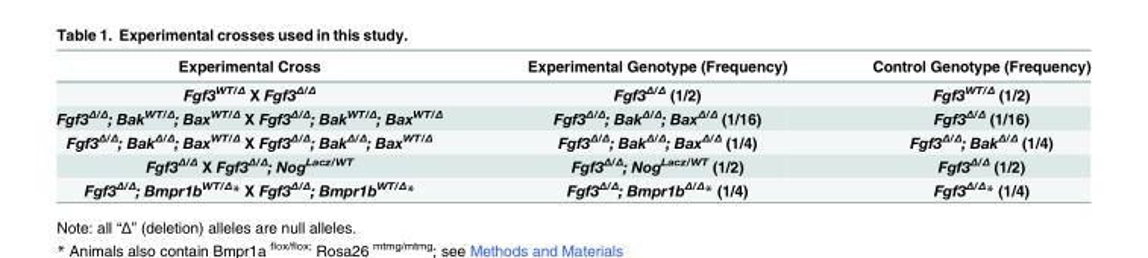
<table><thead><tr><td>Experimental Cross</td><td>Experimental Genotype (Frequency)</td><td>Control Genotype (Frequency)</td></tr></thead><tbody><tr><td>Fgf3<sup>WT/Δ</sup> X Fgf3<sup>Δ/Δ</sup></td><td>Fgf3<sup>Δ/Δ</sup> (1/2)</td><td>Fgf3<sup>WT/Δ</sup> (1/2)</td></tr><tr><td>Fgf3Δ/Δ; BakWT/Δ; BaxWT/Δ X Fgf3Δ/Δ; BakWT/Δ; BaxWT/Δ</td><td>Fgf3<sup>Δ/Δ</sup>; Bak<sup>Δ/Δ</sup>; Bax<sup>Δ/Δ</sup> (1/16)</td><td>Fgf3<sup>Δ/Δ</sup> (1/16)</td></tr><tr><td>Fgf3Δ/Δ; BakΔ/Δ; BaxWT/Δ X Fgf3Δ/Δ; BakΔ/Δ; BaxWT/Δ</td><td>Fgf3<sup>Δ/Δ</sup>; Bak<sup>Δ/Δ</sup>; Bax<sup>Δ/Δ</sup> (1/4)</td><td>Fgf3<sup>Δ/Δ</sup>; Bak<sup>Δ/Δ</sup> (1/4)</td></tr><tr><td>Fgf3<sup>Δ/Δ</sup> X Fgf3<sup>Δ/Δ</sup>; Nog<sup>Lacz/WT</sup></td><td>Fgf3<sup>Δ/Δ</sup>; Nog<sup>Lacz/WT</sup> (1/2)</td><td>Fgf3<sup>Δ/Δ</sup> (1/2)</td></tr><tr><td>Fgf3Δ/Δ; Bmpr1bWT/Δ* X Fgf3Δ/Δ; Bmpr1bWT/Δ*</td><td>Fgf3<sup>Δ/Δ</sup>; Bmpr1b<sup>Δ/Δ</sup>* (1/4)</td><td>Fgf3<sup>Δ/Δ</sup>* (1/4)</td></tr></tbody></table>